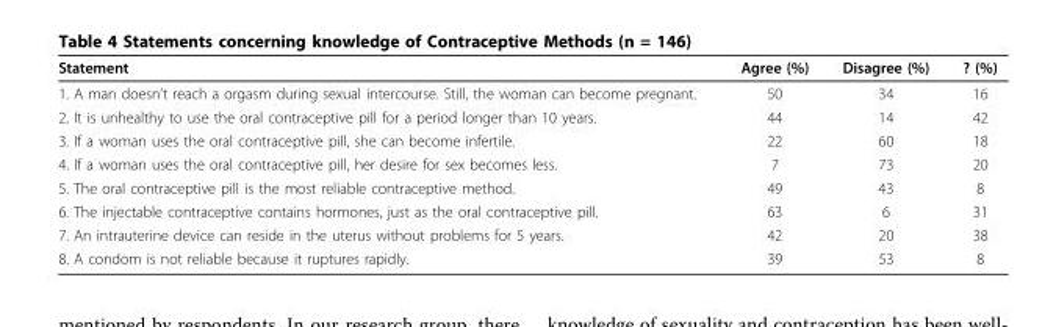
<table><thead><tr><td>Statement</td><td>Agree (%)</td><td>Disagree (%)</td><td>? (%)</td></tr></thead><tbody><tr><td>1. A man doesn’t reach a orgasm during sexual intercourse. Still, the woman can become pregnant.</td><td>50</td><td>34</td><td>16</td></tr><tr><td>2. It is unhealthy to use the oral contraceptive pill for a period longer than 10 years.</td><td>44</td><td>14</td><td>42</td></tr><tr><td>3. If a woman uses the oral contraceptive pill, she can become infertile.</td><td>22</td><td>60</td><td>18</td></tr><tr><td>4. If a woman uses the oral contraceptive pill, her desire for sex becomes less.</td><td>7</td><td>73</td><td>20</td></tr><tr><td>5. The oral contraceptive pill is the most reliable contraceptive method.</td><td>49</td><td>43</td><td>8</td></tr><tr><td>6. The injectable contraceptive contains hormones, just as the oral contraceptive pill.</td><td>63</td><td>6</td><td>31</td></tr><tr><td>7. An intrauterine device can reside in the uterus without problems for 5 years.</td><td>42</td><td>20</td><td>38</td></tr><tr><td>8. A condom is not reliable because it ruptures rapidly.</td><td>39</td><td>53</td><td>8</td></tr></tbody></table>